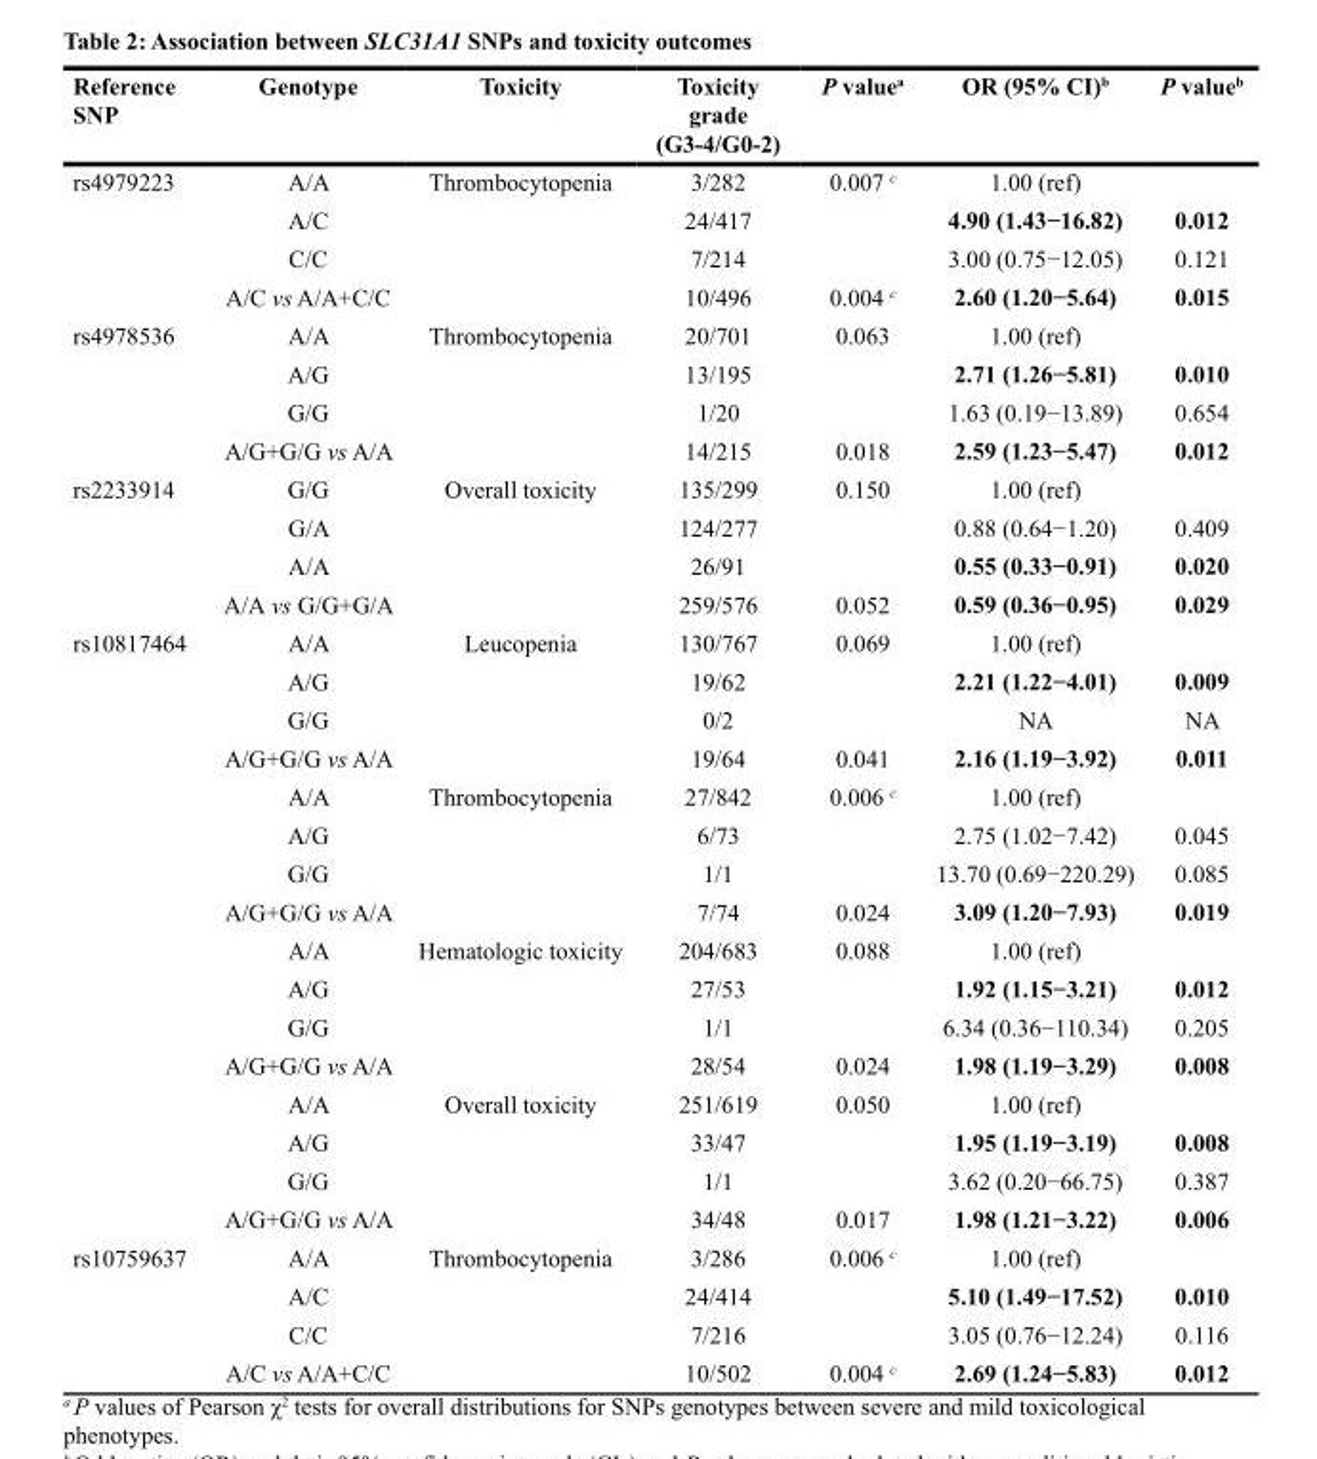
<table><thead><tr><td>Reference SNP</td><td>Genotype</td><td>Toxicity</td><td>Toxicity grade (G3-4/G0-2)</td><td>P value<sup>a</sup></td><td>OR (95% CI)<sup>b</sup></td><td>P value<sup>b</sup></td></tr></thead><tbody><tr><td rowspan="4">rs4979223</td><td>A/A</td><td>Thrombocytopenia</td><td>3/282</td><td>0.007 <sup>c</sup></td><td>1.00 (ref)</td><td></td></tr><tr><td>A/C</td><td></td><td>24/417</td><td></td><td>4.90 (1.43−16.82)</td><td>0.012</td></tr><tr><td>C/C</td><td></td><td>7/214</td><td></td><td>3.00 (0.75−12.05)</td><td>0.121</td></tr><tr><td>A/C vs A/A+C/C</td><td></td><td>10/496</td><td>0.004 <sup>c</sup></td><td>2.60 (1.20−5.64)</td><td>0.015</td></tr><tr><td rowspan="4">rs4978536</td><td>A/A</td><td>Thrombocytopenia</td><td>20/701</td><td>0.063</td><td>1.00 (ref)</td><td></td></tr><tr><td>A/G</td><td></td><td>13/195</td><td></td><td>2.71 (1.26−5.81)</td><td>0.010</td></tr><tr><td>G/G</td><td></td><td>1/20</td><td></td><td>1.63 (0.19−13.89)</td><td>0.654</td></tr><tr><td>A/G+G/G vs A/A</td><td></td><td>14/215</td><td>0.018</td><td>2.59 (1.23−5.47)</td><td>0.012</td></tr><tr><td rowspan="4">rs2233914</td><td>G/G</td><td>Overall toxicity</td><td>135/299</td><td>0.150</td><td>1.00 (ref)</td><td></td></tr><tr><td>G/A</td><td></td><td>124/277</td><td></td><td>0.88 (0.64−1.20)</td><td>0.409</td></tr><tr><td>A/A</td><td></td><td>26/91</td><td></td><td>0.55 (0.33−0.91)</td><td>0.020</td></tr><tr><td>A/A vs G/G+G/A</td><td></td><td>259/576</td><td>0.052</td><td>0.59 (0.36−0.95)</td><td>0.029</td></tr><tr><td rowspan="16">rs10817464</td><td>A/A</td><td>Leucopenia</td><td>130/767</td><td>0.069</td><td>1.00 (ref)</td><td></td></tr><tr><td>A/G</td><td></td><td>19/62</td><td></td><td>2.21 (1.22−4.01)</td><td>0.009</td></tr><tr><td>G/G</td><td></td><td>0/2</td><td></td><td>NA</td><td>NA</td></tr><tr><td>A/G+G/G vs A/A</td><td></td><td>19/64</td><td>0.041</td><td>2.16 (1.19−3.92)</td><td>0.011</td></tr><tr><td>A/A</td><td>Thrombocytopenia</td><td>27/842</td><td>0.006 <sup>c</sup></td><td>1.00 (ref)</td><td></td></tr><tr><td>A/G</td><td></td><td>6/73</td><td></td><td>2.75 (1.02−7.42)</td><td>0.045</td></tr><tr><td>G/G</td><td></td><td>1/1</td><td></td><td>13.70 (0.69−220.29)</td><td>0.085</td></tr><tr><td>A/G+G/G vs A/A</td><td></td><td>7/74</td><td>0.024</td><td>3.09 (1.20−7.93)</td><td>0.019</td></tr><tr><td>A/A</td><td>Hematologic toxicity</td><td>204/683</td><td>0.088</td><td>1.00 (ref)</td><td></td></tr><tr><td>A/G</td><td></td><td>27/53</td><td></td><td>1.92 (1.15−3.21)</td><td>0.012</td></tr><tr><td>G/G</td><td></td><td>1/1</td><td></td><td>6.34 (0.36−110.34)</td><td>0.205</td></tr><tr><td>A/G+G/G vs A/A</td><td></td><td>28/54</td><td>0.024</td><td>1.98 (1.19−3.29)</td><td>0.008</td></tr><tr><td>A/A</td><td>Overall toxicity</td><td>251/619</td><td>0.050</td><td>1.00 (ref)</td><td></td></tr><tr><td>A/G</td><td></td><td>33/47</td><td></td><td>1.95 (1.19−3.19)</td><td>0.008</td></tr><tr><td>G/G</td><td></td><td>1/1</td><td></td><td>3.62 (0.20−66.75)</td><td>0.387</td></tr><tr><td>A/G+G/G vs A/A</td><td></td><td>34/48</td><td>0.017</td><td>1.98 (1.21−3.22)</td><td>0.006</td></tr><tr><td rowspan="4">rs10759637</td><td>A/A</td><td>Thrombocytopenia</td><td>3/286</td><td>0.006 <sup>c</sup></td><td>1.00 (ref)</td><td></td></tr><tr><td>A/C</td><td></td><td>24/414</td><td></td><td>5.10 (1.49−17.52)</td><td>0.010</td></tr><tr><td>C/C</td><td></td><td>7/216</td><td></td><td>3.05 (0.76−12.24)</td><td>0.116</td></tr><tr><td>A/C vs A/A+C/C</td><td></td><td>10/502</td><td>0.004 <sup>c</sup></td><td>2.69 (1.24−5.83)</td><td>0.012</td></tr></tbody></table>